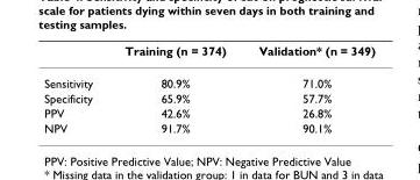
<table><thead><tr><td></td><td>Training (n = 374)</td><td>Validation* (n = 349)</td></tr></thead><tbody><tr><td>Sensitivity</td><td>80.9%</td><td>71.0%</td></tr><tr><td>Specificity</td><td>65.9%</td><td>57.7%</td></tr><tr><td>PPV</td><td>42.6%</td><td>26.8%</td></tr><tr><td>NPV</td><td>91.7%</td><td>90.1%</td></tr></tbody></table>